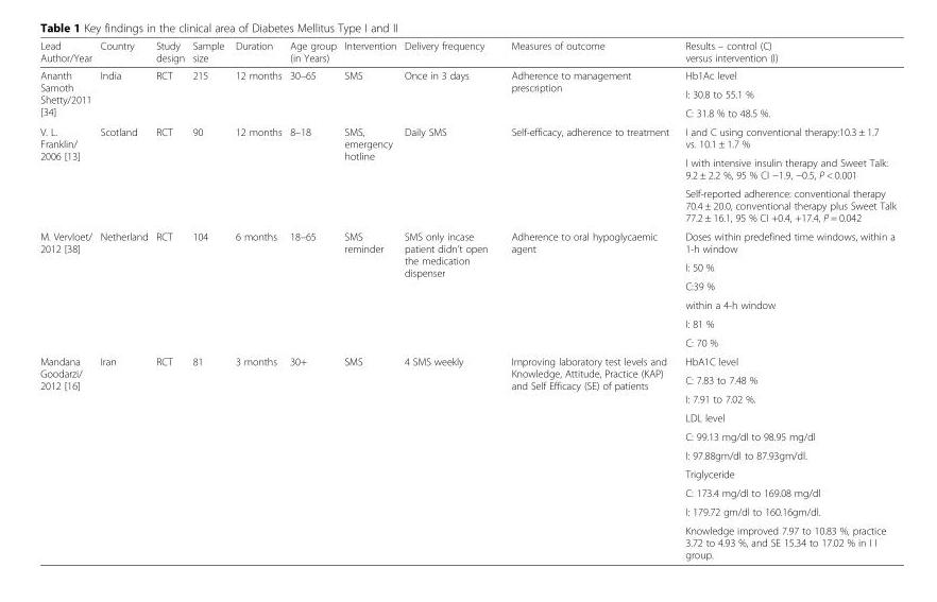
<table><thead><tr><td>Lead Author/Year</td><td>Country</td><td>Study design</td><td>Sample size</td><td>Duration</td><td>Age group (in Years)</td><td>Intervention</td><td>Delivery frequency</td><td>Measures of outcome</td><td>Results – control (C) versus intervention (I)</td></tr></thead><tbody><tr><td rowspan="3">Ananth Samoth Shetty/2011 [34]</td><td rowspan="3">India</td><td rowspan="3">RCT</td><td rowspan="3">215</td><td rowspan="3">12 months</td><td rowspan="3">30–65</td><td rowspan="3">SMS</td><td rowspan="3">Once in 3 days</td><td rowspan="3">Adherence to management prescription</td><td>Hb1Ac level</td></tr><tr><td>I: 30.8 to 55.1 %</td></tr><tr><td>C: 31.8 % to 48.5 %.</td></tr><tr><td rowspan="3">V. L. Franklin/ 2006 [13]</td><td rowspan="3">Scotland</td><td rowspan="3">RCT</td><td rowspan="3">90</td><td rowspan="3">12 months</td><td rowspan="3">8–18</td><td rowspan="3">SMS, emergency hotline</td><td rowspan="3">Daily SMS</td><td rowspan="3">Self-efficacy, adherence to treatment</td><td>I and C using conventional therapy:10.3 ± 1.7 vs. 10.1 ± 1.7 %</td></tr><tr><td>I with intensive insulin therapy and Sweet Talk: 9.2 ± 2.2 %, 95 % CI −1.9, −0.5, P &lt; 0.001</td></tr><tr><td>Self-reported adherence: conventional therapy 70.4 ± 20.0, conventional therapy plus Sweet Talk 77.2 ± 16.1, 95 % CI +0.4, +17.4, P = 0.042</td></tr><tr><td rowspan="6">M. Vervloet/ 2012 [38]</td><td rowspan="6">Netherland</td><td rowspan="6">RCT</td><td rowspan="6">104</td><td rowspan="6">6 months</td><td rowspan="6">18–65</td><td rowspan="6">SMS reminder</td><td rowspan="6">SMS only incase patient didn’t open the medication dispenser</td><td rowspan="6">Adherence to oral hypoglycaemic agent</td><td>Doses within predefined time windows, within a 1-h window</td></tr><tr><td>I: 50 %</td></tr><tr><td>C:39 %</td></tr><tr><td>within a 4-h window</td></tr><tr><td>I: 81 %</td></tr><tr><td>C: 70 %</td></tr><tr><td rowspan="10">Mandana Goodarzi/ 2012 [16]</td><td rowspan="10">Iran</td><td rowspan="10">RCT</td><td rowspan="10">81</td><td rowspan="10">3 months</td><td rowspan="10">30+</td><td rowspan="10">SMS</td><td rowspan="10">4 SMS weekly</td><td rowspan="10">Improving laboratory test levels and Knowledge, Attitude, Practice (KAP) and Self Efficacy (SE) of patients</td><td>HbA1C level</td></tr><tr><td>C: 7.83 to 7.48 %</td></tr><tr><td>I: 7.91 to 7.02 %.</td></tr><tr><td>LDL level</td></tr><tr><td>C: 99.13 mg/dl to 98.95 mg/dl</td></tr><tr><td>I: 97.88gm/dl to 87.93gm/dl.</td></tr><tr><td>Triglyceride</td></tr><tr><td>C: 173.4 mg/dl to 169.08 mg/dl</td></tr><tr><td>I: 179.72 gm/dl to 160.16gm/dl.</td></tr><tr><td>Knowledge improved 7.97 to 10.83 %, practice 3.72 to 4.93 %, and SE 15.34 to 17.02 % in I I group.</td></tr></tbody></table>